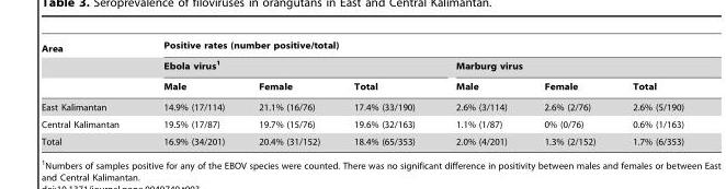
<table><thead><tr><td rowspan="3">Area</td><td colspan="6">Positive rates (number positive/total)</td></tr><tr><td colspan="3">Ebola virus<sup>1</sup></td><td colspan="3">Marburg virus</td></tr><tr><td>Male</td><td>Female</td><td>Total</td><td>Male</td><td>Female</td><td>Total</td></tr></thead><tbody><tr><td>East Kalimantan</td><td>14.9% (17/114)</td><td>21.1% (16/76)</td><td>17.4% (33/190)</td><td>2.6% (3/114)</td><td>2.6% (2/76)</td><td>2.6% (5/190)</td></tr><tr><td>Central Kalimantan</td><td>19.5% (17/87)</td><td>19.7% (15/76)</td><td>19.6% (32/163)</td><td>1.1% (1/87)</td><td>0% (0/76)</td><td>0.6% (1/163)</td></tr><tr><td>Total</td><td>16.9% (34/201)</td><td>20.4% (31/152)</td><td>18.4% (65/353)</td><td>2.0% (4/201)</td><td>1.3% (2/152)</td><td>1.7% (6/353)</td></tr></tbody></table>